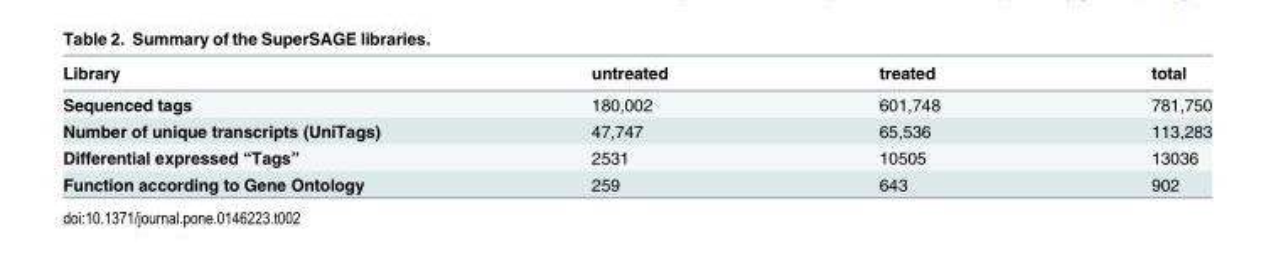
<table><thead><tr><td>Library</td><td>untreated</td><td>treated</td><td>total</td></tr></thead><tbody><tr><td>Sequenced tags</td><td>180,002</td><td>601,748</td><td>781,750</td></tr><tr><td>Number of unique transcripts (UniTags)</td><td>47,747</td><td>65,536</td><td>113,283</td></tr><tr><td>Differential expressed “Tags”</td><td>2531</td><td>10505</td><td>13036</td></tr><tr><td>Function according to Gene Ontology</td><td>259</td><td>643</td><td>902</td></tr></tbody></table>